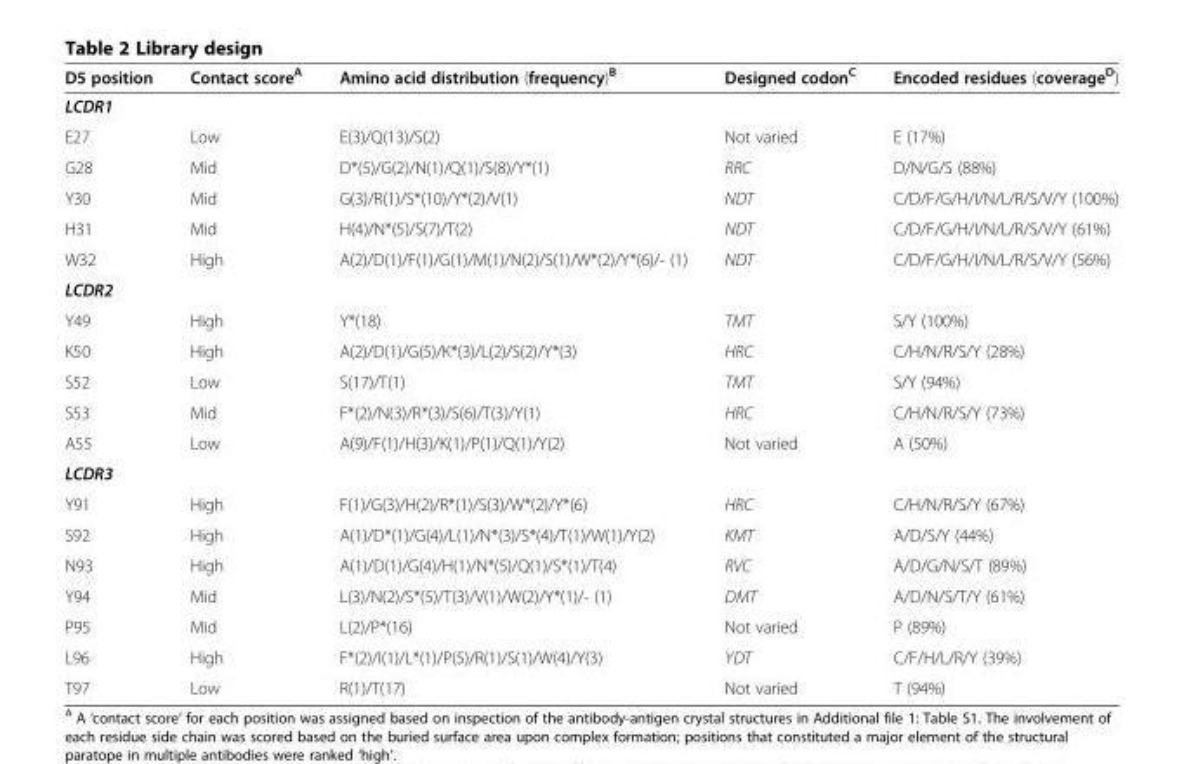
<table><thead><tr><td>D5 position</td><td>Contact score<sup>A</sup></td><td>Amino acid distribution (frequency)<sup>B</sup></td><td>Designed codon<sup>C</sup></td><td>Encoded residues (coverage<sup>D</sup>)</td></tr></thead><tbody><tr><td colspan="5">LCDR1</td></tr><tr><td>E27</td><td>Low</td><td>E(3)/Q(13)/S(2)</td><td>Not varied</td><td>E (17%)</td></tr><tr><td>G28</td><td>Mid</td><td>D*(5)/G(2)/N(1)/Q(1)/S(8)/Y*(1)</td><td>RRC</td><td>D/N/G/S (88%)</td></tr><tr><td>Y30</td><td>Mid</td><td>G(3)/R(1)/S*(10)/Y*(2)/V(1)</td><td>NDT</td><td>C/D/F/G/H/I/N/L/R/S/V/Y (100%)</td></tr><tr><td>H31</td><td>Mid</td><td>H(4)/N*(5)/S(7)/T(2)</td><td>NDT</td><td>C/D/F/G/H/I/N/L/R/S/V/Y (61%)</td></tr><tr><td>W32</td><td>High</td><td>A(2)/D(1)/F(1)/G(1)/M(1)/N(2)/S(1)/W*(2)/Y*(6)/- (1)</td><td>NDT</td><td>C/D/F/G/H/I/N/L/R/S/V/Y (56%)</td></tr><tr><td colspan="5">LCDR2</td></tr><tr><td>Y49</td><td>High</td><td>Y*(18)</td><td>TMT</td><td>S/Y (100%)</td></tr><tr><td>K50</td><td>High</td><td>A(2)/D(1)/G(5)/K*(3)/L(2)/S(2)/Y*(3)</td><td>HRC</td><td>C/H/N/R/S/Y (28%)</td></tr><tr><td>S52</td><td>Low</td><td>S(17)/T(1)</td><td>TMT</td><td>S/Y (94%)</td></tr><tr><td>S53</td><td>Mid</td><td>F*(2)/N(3)/R*(3)/S(6)/T(3)/Y(1)</td><td>HRC</td><td>C/H/N/R/S/Y (73%)</td></tr><tr><td>A55</td><td>Low</td><td>A(9)/F(1)/H(3)/K(1)/P(1)/Q(1)/Y(2)</td><td>Not varied</td><td>A (50%)</td></tr><tr><td colspan="5">LCDR3</td></tr><tr><td>Y91</td><td>High</td><td>F(1)/G(3)/H(2)/R*(1)/S(3)/W*(2)/Y*(6)</td><td>HRC</td><td>C/H/N/R/S/Y (67%)</td></tr><tr><td>S92</td><td>High</td><td>A(1)/D*(1)/G(4)/L(1)/N*(3)/S*(4)/T(1)/W(1)/Y(2)</td><td>KMT</td><td>A/D/S/Y (44%)</td></tr><tr><td>N93</td><td>High</td><td>A(1)/D(1)/G(4)/H(1)/N*(5)/Q(1)/S*(1)/T(4)</td><td>RVC</td><td>A/D/G/N/S/T (89%)</td></tr><tr><td>Y94</td><td>Mid</td><td>L(3)/N(2)/S*(5)/T(3)/V(1)/W(2)/Y*(1)/- (1)</td><td>DMT</td><td>A/D/N/S/T/Y (61%)</td></tr><tr><td>P95</td><td>Mid</td><td>L(2)/P*(16)</td><td>Not varied</td><td>P (89%)</td></tr><tr><td>L96</td><td>High</td><td>F*(2)/I(1)/L*(1)/P(5)/R(1)/S(1)/W(4)/Y(3)</td><td>YDT</td><td>C/F/H/L/R/Y (39%)</td></tr><tr><td>T97</td><td>Low</td><td>R(1)/T(17)</td><td>Not varied</td><td>T (94%)</td></tr></tbody></table>